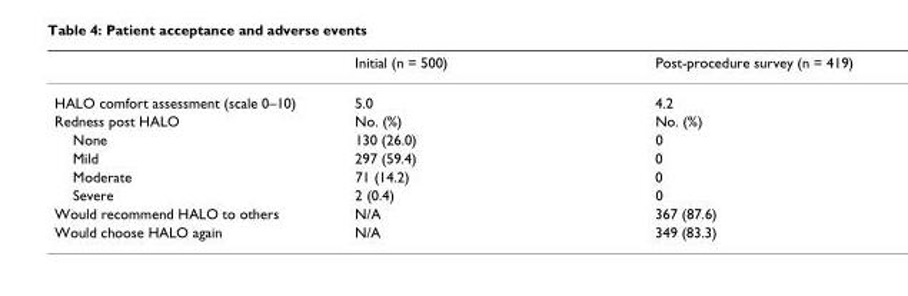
<table><thead><tr><td></td><td>Initial (n = 500)</td><td>Post-procedure survey (n = 419)</td></tr></thead><tbody><tr><td>HALO comfort assessment (scale 0–10)</td><td>5.0</td><td>4.2</td></tr><tr><td>Redness post HALO</td><td>No. (%)</td><td>No. (%)</td></tr><tr><td>None</td><td>130 (26.0)</td><td>0</td></tr><tr><td>Mild</td><td>297 (59.4)</td><td>0</td></tr><tr><td>Moderate</td><td>71 (14.2)</td><td>0</td></tr><tr><td>Severe</td><td>2 (0.4)</td><td>0</td></tr><tr><td>Would recommend HALO to others</td><td>N/A</td><td>367 (87.6)</td></tr><tr><td>Would choose HALO again</td><td>N/A</td><td>349 (83.3)</td></tr></tbody></table>